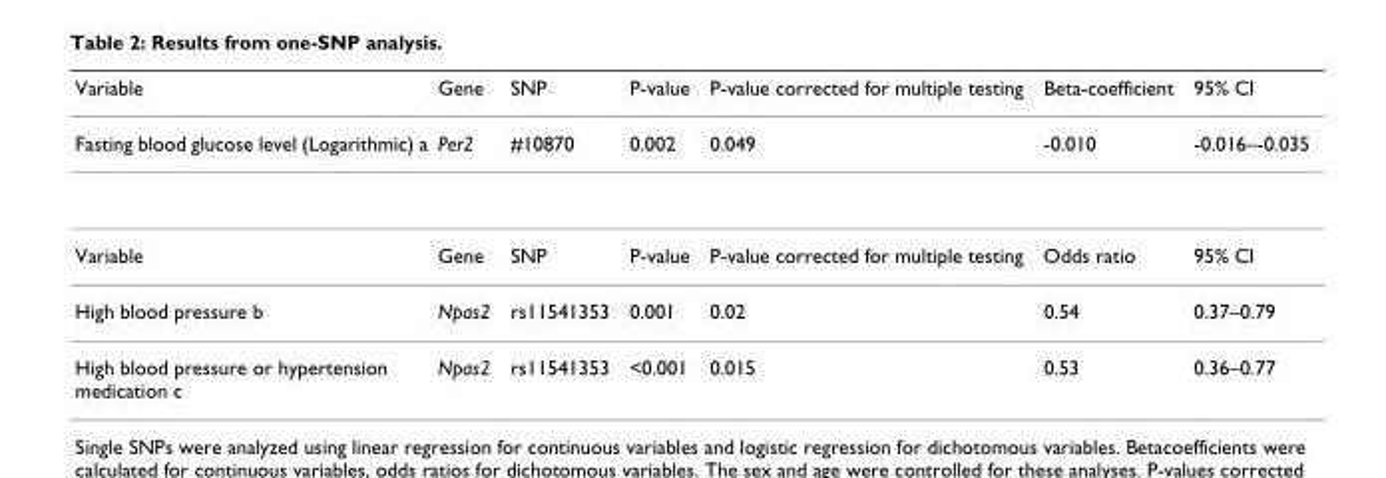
<table><thead><tr><td>Variable</td><td>Gene</td><td>SNP</td><td>P-value</td><td>P-value corrected for multiple testing</td><td>Beta-coefficient</td><td>95% CI</td></tr></thead><tbody><tr><td>Fasting blood glucose level (Logarithmic) a</td><td>Per2</td><td>#10870</td><td>0.002</td><td>0.049</td><td>-0.010</td><td>-0.016–-0.035</td></tr><tr><td>Variable</td><td>Gene</td><td>SNP</td><td>P-value</td><td>P-value corrected for multiple testing</td><td>Odds ratio</td><td>95% CI</td></tr><tr><td>High blood pressure b</td><td>Npas2</td><td>rs11541353</td><td>0.001</td><td>0.02</td><td>0.54</td><td>0.37–0.79</td></tr><tr><td>High blood pressure or hypertension medication c</td><td>Npas2</td><td>rs11541353</td><td>&lt;0.001</td><td>0.015</td><td>0.53</td><td>0.36–0.77</td></tr></tbody></table>